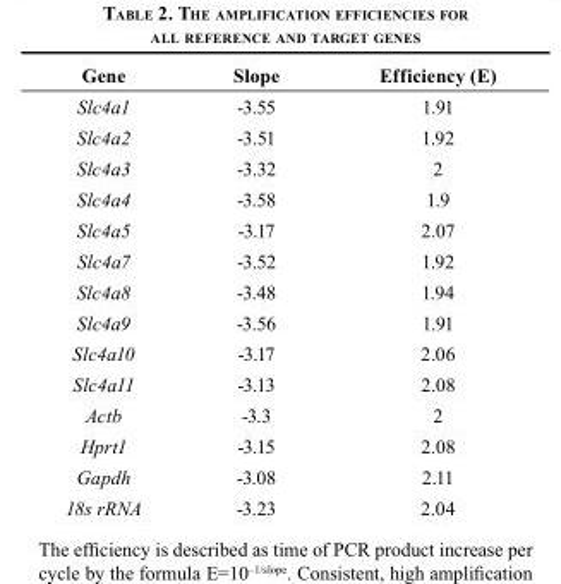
<table><thead><tr><td>Gene</td><td>Slope</td><td>Efficiency (E)</td></tr></thead><tbody><tr><td>Slc4a1</td><td>-3.55</td><td>1.91</td></tr><tr><td>Slc4a2</td><td>-3.51</td><td>1.92</td></tr><tr><td>Slc4a3</td><td>-3.32</td><td>2</td></tr><tr><td>Slc4a4</td><td>-3.58</td><td>1.9</td></tr><tr><td>Slc4a5</td><td>-3.17</td><td>2.07</td></tr><tr><td>Slc4a7</td><td>-3.52</td><td>1.92</td></tr><tr><td>Slc4a8</td><td>-3.48</td><td>1.94</td></tr><tr><td>Slc4a9</td><td>-3.56</td><td>1.91</td></tr><tr><td>Slc4a10</td><td>-3.17</td><td>2.06</td></tr><tr><td>Slc4a11</td><td>-3.13</td><td>2.08</td></tr><tr><td>Actb</td><td>-3.3</td><td>2</td></tr><tr><td>Hprt1</td><td>-3.15</td><td>2.08</td></tr><tr><td>Gapdh</td><td>-3.08</td><td>2.11</td></tr><tr><td>18s rRNA</td><td>-3.23</td><td>2.04</td></tr></tbody></table>